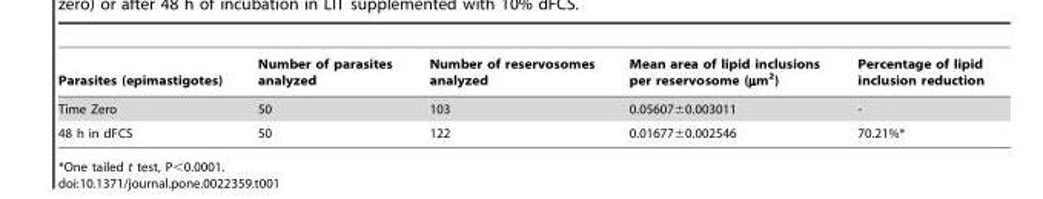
<table><thead><tr><td>Parasites (epimastigotes)</td><td>Number of parasites analyzed</td><td>Number of reservosomes analyzed</td><td>Mean area of lipid inclusions per reservosome (µm<sup>2</sup>)</td><td>Percentage of lipid inclusion reduction</td></tr></thead><tbody><tr><td>Time Zero</td><td>50</td><td>103</td><td>0.05607±0.003011</td><td>-</td></tr><tr><td>48 h in dFCS</td><td>50</td><td>122</td><td>0.01677±0.002546</td><td>70.21%*</td></tr></tbody></table>